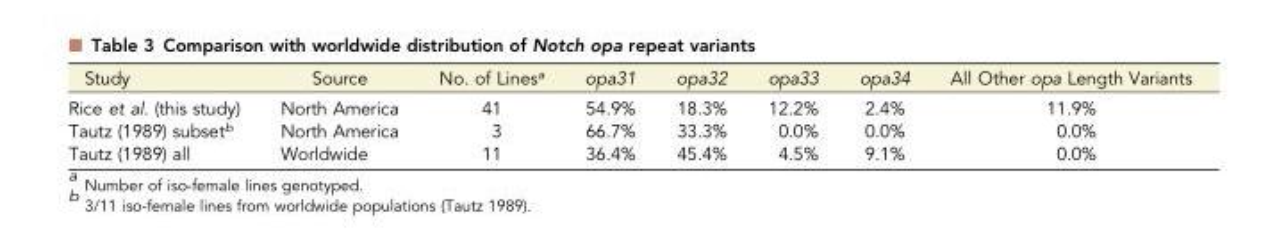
<table><thead><tr><td>Study</td><td>Source</td><td>No. of Lines<sup>a</sup></td><td>opa31</td><td>opa32</td><td>opa33</td><td>opa34</td><td>All Other opa Length Variants</td></tr></thead><tbody><tr><td>Rice et al. (this study)</td><td>North America</td><td>41</td><td>54.9%</td><td>18.3%</td><td>12.2%</td><td>2.4%</td><td>11.9%</td></tr><tr><td>Tautz (1989) subset<sup>b</sup></td><td>North America</td><td>3</td><td>66.7%</td><td>33.3%</td><td>0.0%</td><td>0.0%</td><td>0.0%</td></tr><tr><td>Tautz (1989) all</td><td>Worldwide</td><td>11</td><td>36.4%</td><td>45.4%</td><td>4.5%</td><td>9.1%</td><td>0.0%</td></tr></tbody></table>